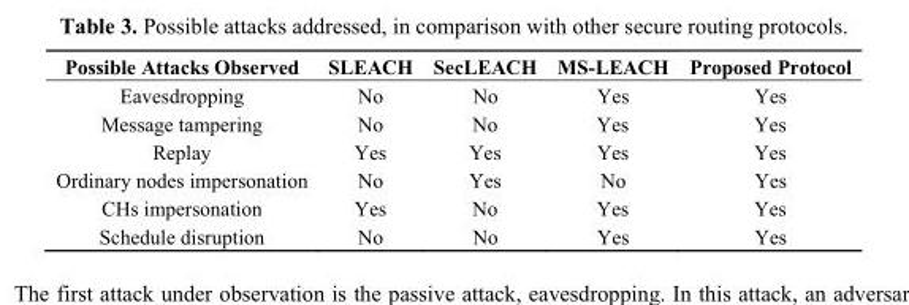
<table><thead><tr><td>Possible Attacks Observed</td><td>SLEACH</td><td>SecLEACH</td><td>MS-LEACH</td><td>Proposed Protocol</td></tr></thead><tbody><tr><td>Eavesdropping</td><td>No</td><td>No</td><td>Yes</td><td>Yes</td></tr><tr><td>Message tampering</td><td>No</td><td>No</td><td>Yes</td><td>Yes</td></tr><tr><td>Replay</td><td>Yes</td><td>Yes</td><td>Yes</td><td>Yes</td></tr><tr><td>Ordinary nodes impersonation</td><td>No</td><td>Yes</td><td>No</td><td>Yes</td></tr><tr><td>CHs impersonation</td><td>Yes</td><td>No</td><td>Yes</td><td>Yes</td></tr><tr><td>Schedule disruption</td><td>No</td><td>No</td><td>Yes</td><td>Yes</td></tr></tbody></table>